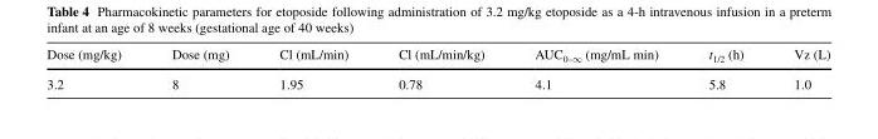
<table><thead><tr><td>Dose (mg/kg)</td><td>Dose (mg)</td><td>Cl (mL/min)</td><td>Cl (mL/min/kg)</td><td>AUC<sub>0–∞</sub> (mg/mL min)</td><td>t<sub>1/2</sub> (h)</td><td>Vz (L)</td></tr></thead><tbody><tr><td>3.2</td><td>8</td><td>1.95</td><td>0.78</td><td>4.1</td><td>5.8</td><td>1.0</td></tr></tbody></table>